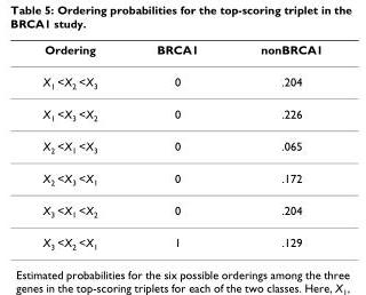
<table><thead><tr><td>Ordering</td><td>BRCA1</td><td>nonBRCA1</td></tr></thead><tbody><tr><td>X1 &lt;X2 &lt;X3</td><td>0</td><td>.204</td></tr><tr><td>X1 &lt;X3 &lt;X2</td><td>0</td><td>.226</td></tr><tr><td>X2 &lt;X1 &lt;X3</td><td>0</td><td>.065</td></tr><tr><td>X2 &lt;X3 &lt;X1</td><td>0</td><td>.172</td></tr><tr><td>X3 &lt;X1 &lt;X2</td><td>0</td><td>.204</td></tr><tr><td>X3 &lt;X2 &lt;X1</td><td>1</td><td>.129</td></tr></tbody></table>